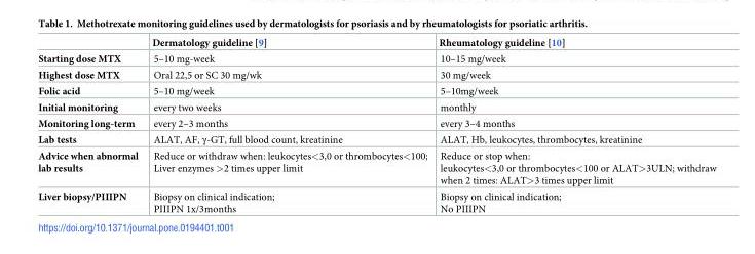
<table><thead><tr><td></td><td>Dermatology guideline [9]</td><td>Rheumatology guideline [10]</td></tr></thead><tbody><tr><td>Starting dose MTX</td><td>5–10 mg-week</td><td>10–15 mg/week</td></tr><tr><td>Highest dose MTX</td><td>Oral 22,5 or SC 30 mg/wk</td><td>30 mg/week</td></tr><tr><td>Folic acid</td><td>5–10 mg/week</td><td>5–10mg/week</td></tr><tr><td>Initial monitoring</td><td>every two weeks</td><td>monthly</td></tr><tr><td>Monitoring long-term</td><td>every 2–3 months</td><td>every 3–4 months</td></tr><tr><td>Lab tests</td><td>ALAT, AF, γ-GT, full blood count, kreatinine</td><td>ALAT, Hb, leukocytes, thrombocytes, kreatinine</td></tr><tr><td>Advice when abnormal lab results</td><td>Reduce or withdraw when: leukocytes&lt;3,0 or thrombocytes&lt;100; Liver enzymes &gt;2 times upper limit</td><td>Reduce or stop when: leukocytes&lt;3,0 or thrombocytes&lt;100 or ALAT&gt;3ULN; withdraw when 2 times: ALAT&gt;3 times upper limit</td></tr><tr><td>Liver biopsy/PIIIPN</td><td>Biopsy on clinical indication; PIIIPN 1x/3months</td><td>Biopsy on clinical indication; No PIIIPN</td></tr></tbody></table>